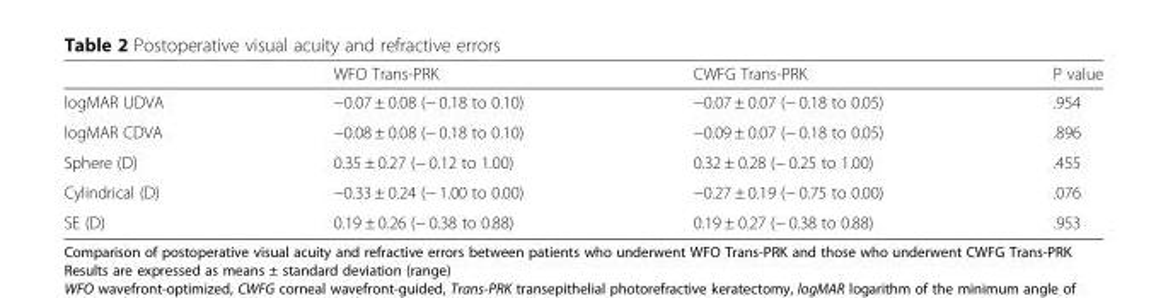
<table><thead><tr><td></td><td>WFO Trans-PRK</td><td>CWFG Trans-PRK</td><td>P value</td></tr></thead><tbody><tr><td>logMAR UDVA</td><td>−0.07 ± 0.08 (− 0.18 to 0.10)</td><td>−0.07 ± 0.07 (− 0.18 to 0.05)</td><td>.954</td></tr><tr><td>logMAR CDVA</td><td>−0.08 ± 0.08 (− 0.18 to 0.10)</td><td>−0.09 ± 0.07 (− 0.18 to 0.05)</td><td>.896</td></tr><tr><td>Sphere (D)</td><td>0.35 ± 0.27 (− 0.12 to 1.00)</td><td>0.32 ± 0.28 (− 0.25 to 1.00)</td><td>.455</td></tr><tr><td>Cylindrical (D)</td><td>−0.33 ± 0.24 (− 1.00 to 0.00)</td><td>−0.27 ± 0.19 (− 0.75 to 0.00)</td><td>.076</td></tr><tr><td>SE (D)</td><td>0.19 ± 0.26 (− 0.38 to 0.88)</td><td>0.19 ± 0.27 (− 0.38 to 0.88)</td><td>.953</td></tr></tbody></table>